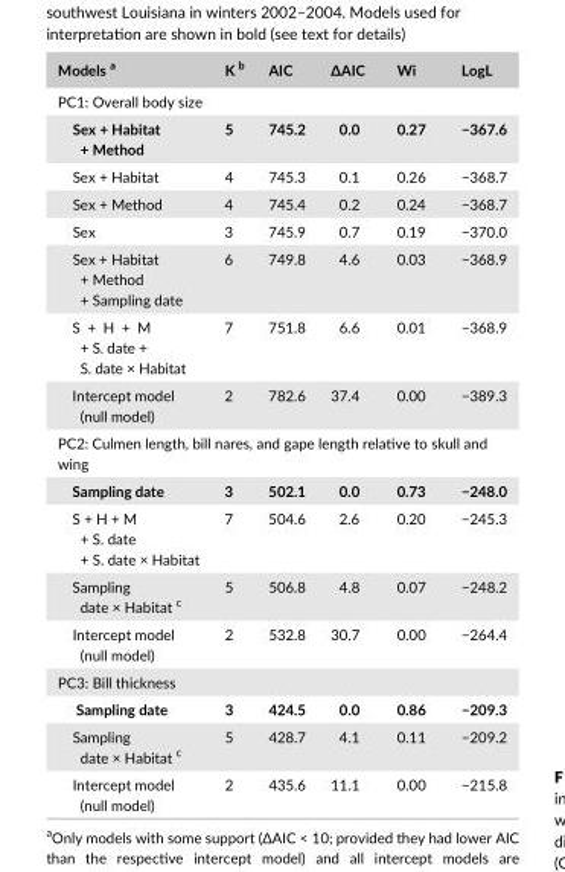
<table><thead><tr><td>Models a</td><td>K b</td><td>AIC</td><td>ΔAIC</td><td>Wi</td><td>LogL</td></tr></thead><tbody><tr><td colspan="6">PC1: Overall body size</td></tr><tr><td>Sex + Habitat + Method</td><td>5</td><td>745.2</td><td>0.0</td><td>0.27</td><td>−367.6</td></tr><tr><td>Sex + Habitat</td><td>4</td><td>745.3</td><td>0.1</td><td>0.26</td><td>−368.7</td></tr><tr><td>Sex + Method</td><td>4</td><td>745.4</td><td>0.2</td><td>0.24</td><td>−368.7</td></tr><tr><td>Sex</td><td>3</td><td>745.9</td><td>0.7</td><td>0.19</td><td>−370.0</td></tr><tr><td>Sex + Habitat + Method + Sampling date</td><td>6</td><td>749.8</td><td>4.6</td><td>0.03</td><td>−368.9</td></tr><tr><td>S + H + M + S. date + S. date × Habitat</td><td>7</td><td>751.8</td><td>6.6</td><td>0.01</td><td>−368.9</td></tr><tr><td>Intercept model (null model)</td><td>2</td><td>782.6</td><td>37.4</td><td>0.00</td><td>−389.3</td></tr><tr><td colspan="6">PC2: Culmen length, bill nares, and gape length relative to skull and wing</td></tr><tr><td>Sampling date</td><td>3</td><td>502.1</td><td>0.0</td><td>0.73</td><td>−248.0</td></tr><tr><td>S + H + M + S. date + S. date × Habitat</td><td>7</td><td>504.6</td><td>2.6</td><td>0.20</td><td>−245.3</td></tr><tr><td>Sampling date × Habitat c</td><td>5</td><td>506.8</td><td>4.8</td><td>0.07</td><td>−248.2</td></tr><tr><td>Intercept model (null model)</td><td>2</td><td>532.8</td><td>30.7</td><td>0.00</td><td>−264.4</td></tr><tr><td colspan="6">PC3: Bill thickness</td></tr><tr><td>Sampling date</td><td>3</td><td>424.5</td><td>0.0</td><td>0.86</td><td>−209.3</td></tr><tr><td>Sampling date × Habitat c</td><td>5</td><td>428.7</td><td>4.1</td><td>0.11</td><td>−209.2</td></tr><tr><td>Intercept model (null model)</td><td>2</td><td>435.6</td><td>11.1</td><td>0.00</td><td>−215.8</td></tr></tbody></table>